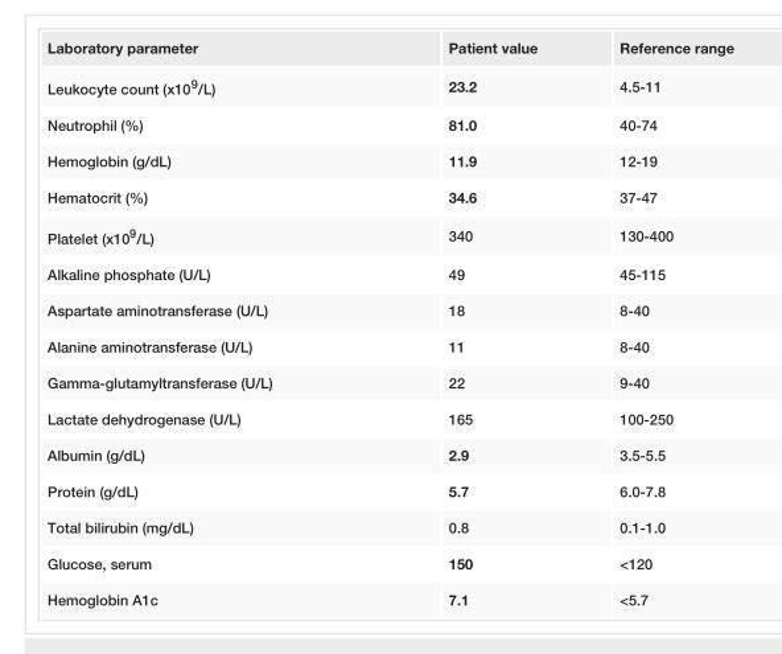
<table><tbody><tr><td>Laboratory parameter</td><td>Patient value</td><td>Reference range</td></tr><tr><td>Leukocyte count (x10<sup>9</sup>/L)</td><td>23.2</td><td>4.5-11</td></tr><tr><td>Neutrophil (%)</td><td>81.0</td><td>40-74</td></tr><tr><td>Hemoglobin (g/dL)</td><td>11.9</td><td>12-19</td></tr><tr><td>Hematocrit (%)</td><td>34.6</td><td>37-47</td></tr><tr><td>Platelet (x10<sup>9</sup>/L)</td><td>340</td><td>130-400</td></tr><tr><td>Alkaline phosphate (U/L)</td><td>49</td><td>45-115</td></tr><tr><td>Aspartate aminotransferase (U/L)</td><td>18</td><td>8-40</td></tr><tr><td>Alanine aminotransferase (U/L)</td><td>11</td><td>8-40</td></tr><tr><td>Gamma-glutamyltransferase (U/L)</td><td>22</td><td>9-40</td></tr><tr><td>Lactate dehydrogenase (U/L)</td><td>165</td><td>100-250</td></tr><tr><td>Albumin (g/dL)</td><td>2.9</td><td>3.5-5.5</td></tr><tr><td>Protein (g/dL)</td><td>5.7</td><td>6.0-7.8</td></tr><tr><td>Total bilirubin (mg/dL)</td><td>0.8</td><td>0.1-1.0</td></tr><tr><td>Glucose, serum</td><td>150</td><td>&lt;120</td></tr><tr><td>Hemoglobin A1c</td><td>7.1</td><td>&lt;5.7</td></tr></tbody></table>